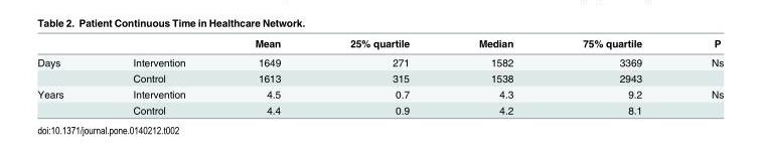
<table><thead><tr><td></td><td></td><td>Mean</td><td>25% quartile</td><td>Median</td><td>75% quartile</td><td>P</td></tr></thead><tbody><tr><td rowspan="2">Days</td><td>Intervention</td><td>1649</td><td>271</td><td>1582</td><td>3369</td><td>Ns</td></tr><tr><td>Control</td><td>1613</td><td>315</td><td>1538</td><td>2943</td><td></td></tr><tr><td rowspan="2">Years</td><td>Intervention</td><td>4.5</td><td>0.7</td><td>4.3</td><td>9.2</td><td>Ns</td></tr><tr><td>Control</td><td>4.4</td><td>0.9</td><td>4.2</td><td>8.1</td><td></td></tr></tbody></table>